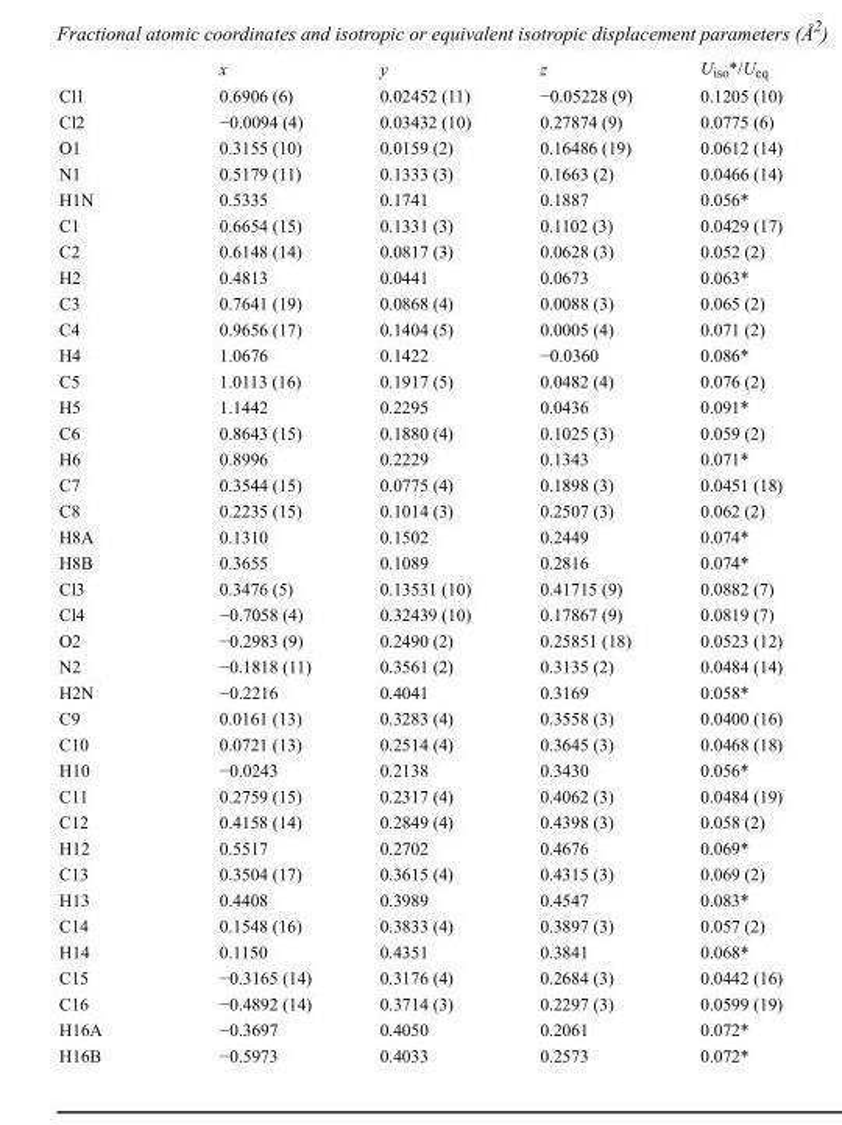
<table><thead><tr><td></td><td>x</td><td>y</td><td>z</td><td>U<sub>iso</sub>*/U<sub>eq</sub></td></tr></thead><tbody><tr><td>Cl1</td><td>0.6906 (6)</td><td>0.02452 (11)</td><td>−0.05228 (9)</td><td>0.1205 (10)</td></tr><tr><td>Cl2</td><td>−0.0094 (4)</td><td>0.03432 (10)</td><td>0.27874 (9)</td><td>0.0775 (6)</td></tr><tr><td>O1</td><td>0.3155 (10)</td><td>0.0159 (2)</td><td>0.16486 (19)</td><td>0.0612 (14)</td></tr><tr><td>N1</td><td>0.5179 (11)</td><td>0.1333 (3)</td><td>0.1663 (2)</td><td>0.0466 (14)</td></tr><tr><td>H1N</td><td>0.5335</td><td>0.1741</td><td>0.1887</td><td>0.056*</td></tr><tr><td>C1</td><td>0.6654 (15)</td><td>0.1331 (3)</td><td>0.1102 (3)</td><td>0.0429 (17)</td></tr><tr><td>C2</td><td>0.6148 (14)</td><td>0.0817 (3)</td><td>0.0628 (3)</td><td>0.052 (2)</td></tr><tr><td>H2</td><td>0.4813</td><td>0.0441</td><td>0.0673</td><td>0.063*</td></tr><tr><td>C3</td><td>0.7641 (19)</td><td>0.0868 (4)</td><td>0.0088 (3)</td><td>0.065 (2)</td></tr><tr><td>C4</td><td>0.9656 (17)</td><td>0.1404 (5)</td><td>0.0005 (4)</td><td>0.071 (2)</td></tr><tr><td>H4</td><td>1.0676</td><td>0.1422</td><td>−0.0360</td><td>0.086*</td></tr><tr><td>C5</td><td>1.0113 (16)</td><td>0.1917 (5)</td><td>0.0482 (4)</td><td>0.076 (2)</td></tr><tr><td>H5</td><td>1.1442</td><td>0.2295</td><td>0.0436</td><td>0.091*</td></tr><tr><td>C6</td><td>0.8643 (15)</td><td>0.1880 (4)</td><td>0.1025 (3)</td><td>0.059 (2)</td></tr><tr><td>H6</td><td>0.8996</td><td>0.2229</td><td>0.1343</td><td>0.071*</td></tr><tr><td>C7</td><td>0.3544 (15)</td><td>0.0775 (4)</td><td>0.1898 (3)</td><td>0.0451 (18)</td></tr><tr><td>C8</td><td>0.2235 (15)</td><td>0.1014 (3)</td><td>0.2507 (3)</td><td>0.062 (2)</td></tr><tr><td>H8A</td><td>0.1310</td><td>0.1502</td><td>0.2449</td><td>0.074*</td></tr><tr><td>H8B</td><td>0.3655</td><td>0.1089</td><td>0.2816</td><td>0.074*</td></tr><tr><td>Cl3</td><td>0.3476 (5)</td><td>0.13531 (10)</td><td>0.41715 (9)</td><td>0.0882 (7)</td></tr><tr><td>Cl4</td><td>−0.7058 (4)</td><td>0.32439 (10)</td><td>0.17867 (9)</td><td>0.0819 (7)</td></tr><tr><td>O2</td><td>−0.2983 (9)</td><td>0.2490 (2)</td><td>0.25851 (18)</td><td>0.0523 (12)</td></tr><tr><td>N2</td><td>−0.1818 (11)</td><td>0.3561 (2)</td><td>0.3135 (2)</td><td>0.0484 (14)</td></tr><tr><td>H2N</td><td>−0.2216</td><td>0.4041</td><td>0.3169</td><td>0.058*</td></tr><tr><td>C9</td><td>0.0161 (13)</td><td>0.3283 (4)</td><td>0.3558 (3)</td><td>0.0400 (16)</td></tr><tr><td>C10</td><td>0.0721 (13)</td><td>0.2514 (4)</td><td>0.3645 (3)</td><td>0.0468 (18)</td></tr><tr><td>H10</td><td>−0.0243</td><td>0.2138</td><td>0.3430</td><td>0.056*</td></tr><tr><td>C11</td><td>0.2759 (15)</td><td>0.2317 (4)</td><td>0.4062 (3)</td><td>0.0484 (19)</td></tr><tr><td>C12</td><td>0.4158 (14)</td><td>0.2849 (4)</td><td>0.4398 (3)</td><td>0.058 (2)</td></tr><tr><td>H12</td><td>0.5517</td><td>0.2702</td><td>0.4676</td><td>0.069*</td></tr><tr><td>C13</td><td>0.3504 (17)</td><td>0.3615 (4)</td><td>0.4315 (3)</td><td>0.069 (2)</td></tr><tr><td>H13</td><td>0.4408</td><td>0.3989</td><td>0.4547</td><td>0.083*</td></tr><tr><td>C14</td><td>0.1548 (16)</td><td>0.3833 (4)</td><td>0.3897 (3)</td><td>0.057 (2)</td></tr><tr><td>H14</td><td>0.1150</td><td>0.4351</td><td>0.3841</td><td>0.068*</td></tr><tr><td>C15</td><td>−0.3165 (14)</td><td>0.3176 (4)</td><td>0.2684 (3)</td><td>0.0442 (16)</td></tr><tr><td>C16</td><td>−0.4892 (14)</td><td>0.3714 (3)</td><td>0.2297 (3)</td><td>0.0599 (19)</td></tr><tr><td>H16A</td><td>−0.3697</td><td>0.4050</td><td>0.2061</td><td>0.072*</td></tr><tr><td>H16B</td><td>−0.5973</td><td>0.4033</td><td>0.2573</td><td>0.072*</td></tr></tbody></table>